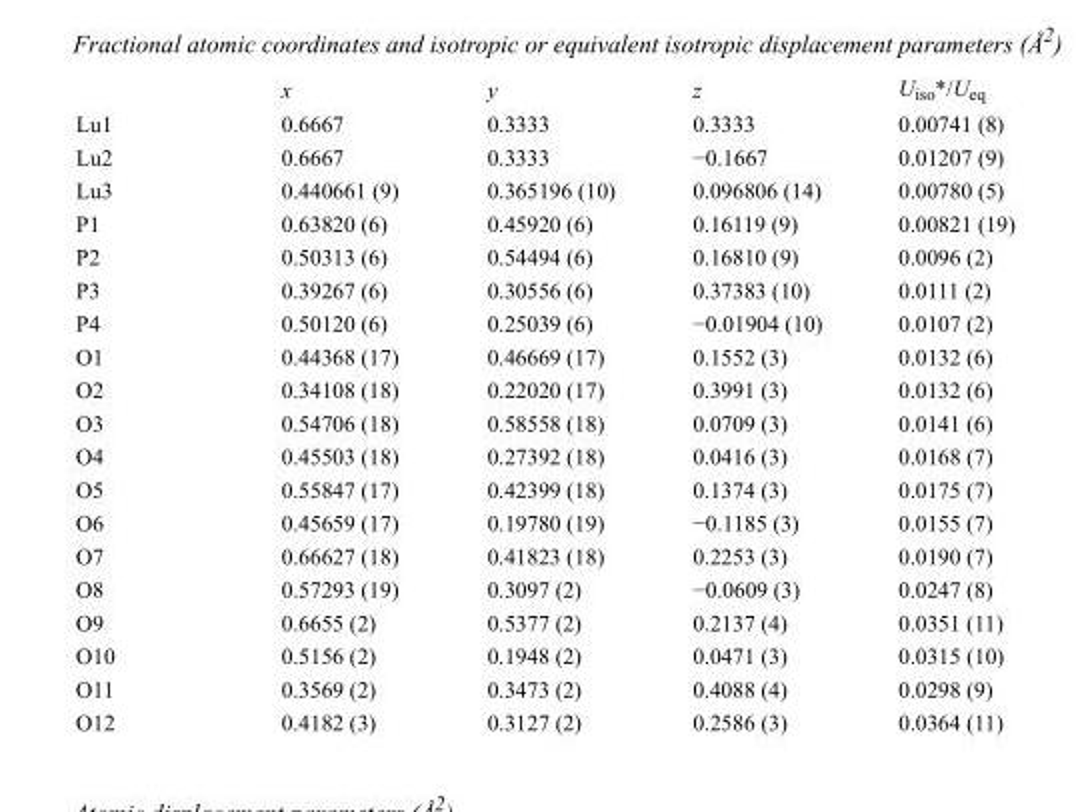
<table><thead><tr><td></td><td>x</td><td>y</td><td>z</td><td>U<sub>iso</sub>*/U<sub>eq</sub></td></tr></thead><tbody><tr><td>Lu1</td><td>0.6667</td><td>0.3333</td><td>0.3333</td><td>0.00741 (8)</td></tr><tr><td>Lu2</td><td>0.6667</td><td>0.3333</td><td>−0.1667</td><td>0.01207 (9)</td></tr><tr><td>Lu3</td><td>0.440661 (9)</td><td>0.365196 (10)</td><td>0.096806 (14)</td><td>0.00780 (5)</td></tr><tr><td>P1</td><td>0.63820 (6)</td><td>0.45920 (6)</td><td>0.16119 (9)</td><td>0.00821 (19)</td></tr><tr><td>P2</td><td>0.50313 (6)</td><td>0.54494 (6)</td><td>0.16810 (9)</td><td>0.0096 (2)</td></tr><tr><td>P3</td><td>0.39267 (6)</td><td>0.30556 (6)</td><td>0.37383 (10)</td><td>0.0111 (2)</td></tr><tr><td>P4</td><td>0.50120 (6)</td><td>0.25039 (6)</td><td>−0.01904 (10)</td><td>0.0107 (2)</td></tr><tr><td>O1</td><td>0.44368 (17)</td><td>0.46669 (17)</td><td>0.1552 (3)</td><td>0.0132 (6)</td></tr><tr><td>O2</td><td>0.34108 (18)</td><td>0.22020 (17)</td><td>0.3991 (3)</td><td>0.0132 (6)</td></tr><tr><td>O3</td><td>0.54706 (18)</td><td>0.58558 (18)</td><td>0.0709 (3)</td><td>0.0141 (6)</td></tr><tr><td>O4</td><td>0.45503 (18)</td><td>0.27392 (18)</td><td>0.0416 (3)</td><td>0.0168 (7)</td></tr><tr><td>O5</td><td>0.55847 (17)</td><td>0.42399 (18)</td><td>0.1374 (3)</td><td>0.0175 (7)</td></tr><tr><td>O6</td><td>0.45659 (17)</td><td>0.19780 (19)</td><td>−0.1185 (3)</td><td>0.0155 (7)</td></tr><tr><td>O7</td><td>0.66627 (18)</td><td>0.41823 (18)</td><td>0.2253 (3)</td><td>0.0190 (7)</td></tr><tr><td>O8</td><td>0.57293 (19)</td><td>0.3097 (2)</td><td>−0.0609 (3)</td><td>0.0247 (8)</td></tr><tr><td>O9</td><td>0.6655 (2)</td><td>0.5377 (2)</td><td>0.2137 (4)</td><td>0.0351 (11)</td></tr><tr><td>O10</td><td>0.5156 (2)</td><td>0.1948 (2)</td><td>0.0471 (3)</td><td>0.0315 (10)</td></tr><tr><td>O11</td><td>0.3569 (2)</td><td>0.3473 (2)</td><td>0.4088 (4)</td><td>0.0298 (9)</td></tr><tr><td>O12</td><td>0.4182 (3)</td><td>0.3127 (2)</td><td>0.2586 (3)</td><td>0.0364 (11)</td></tr></tbody></table>